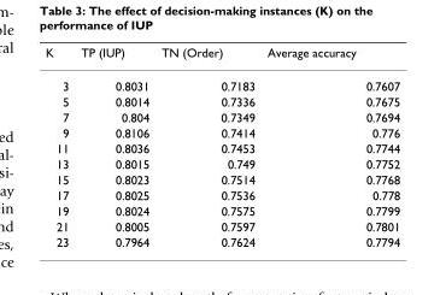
<table><thead><tr><td>K</td><td>TP (IUP)</td><td>TN (Order)</td><td>Average accuracy</td></tr></thead><tbody><tr><td>3</td><td>0.8031</td><td>0.7183</td><td>0.7607</td></tr><tr><td>5</td><td>0.8014</td><td>0.7336</td><td>0.7675</td></tr><tr><td>7</td><td>0.804</td><td>0.7349</td><td>0.7694</td></tr><tr><td>9</td><td>0.8106</td><td>0.7414</td><td>0.776</td></tr><tr><td>11</td><td>0.8036</td><td>0.7453</td><td>0.7744</td></tr><tr><td>13</td><td>0.8015</td><td>0.749</td><td>0.7752</td></tr><tr><td>15</td><td>0.8023</td><td>0.7514</td><td>0.7768</td></tr><tr><td>17</td><td>0.8025</td><td>0.7536</td><td>0.778</td></tr><tr><td>19</td><td>0.8024</td><td>0.7575</td><td>0.7799</td></tr><tr><td>21</td><td>0.8005</td><td>0.7597</td><td>0.7801</td></tr><tr><td>23</td><td>0.7964</td><td>0.7624</td><td>0.7794</td></tr></tbody></table>